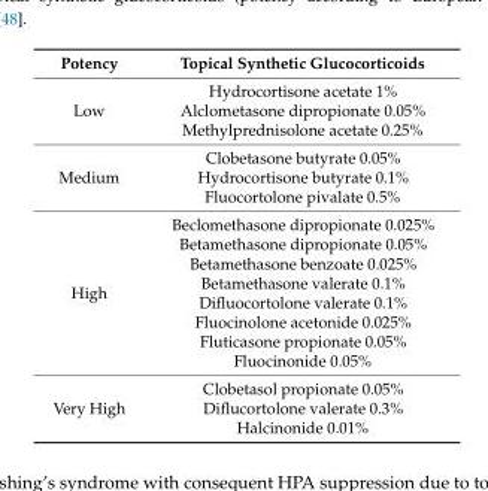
<table><thead><tr><td>Potency</td><td>Topical Synthetic Glucocorticoids</td></tr></thead><tbody><tr><td>Low</td><td>Hydrocortisone acetate 1% Alclometasone dipropionate 0.05% Methylprednisolone acetate 0.25%</td></tr><tr><td>Medium</td><td>Clobetasone butyrate 0.05% Hydrocortisone butyrate 0.1% Fluocortolone pivalate 0.5%</td></tr><tr><td>High</td><td>Beclomethasone dipropionate 0.025% Betamethasone dipropionate 0.05% Betamethasone benzoate 0.025% Betamethasone valerate 0.1% Difluocortolone valerate 0.1% Fluocinolone acetonide 0.025% Fluticasone propionate 0.05% Fluocinonide 0.05%</td></tr><tr><td>Very High</td><td>Clobetasol propionate 0.05% Diflucortolone valerate 0.3% Halcinonide 0.01%</td></tr></tbody></table>